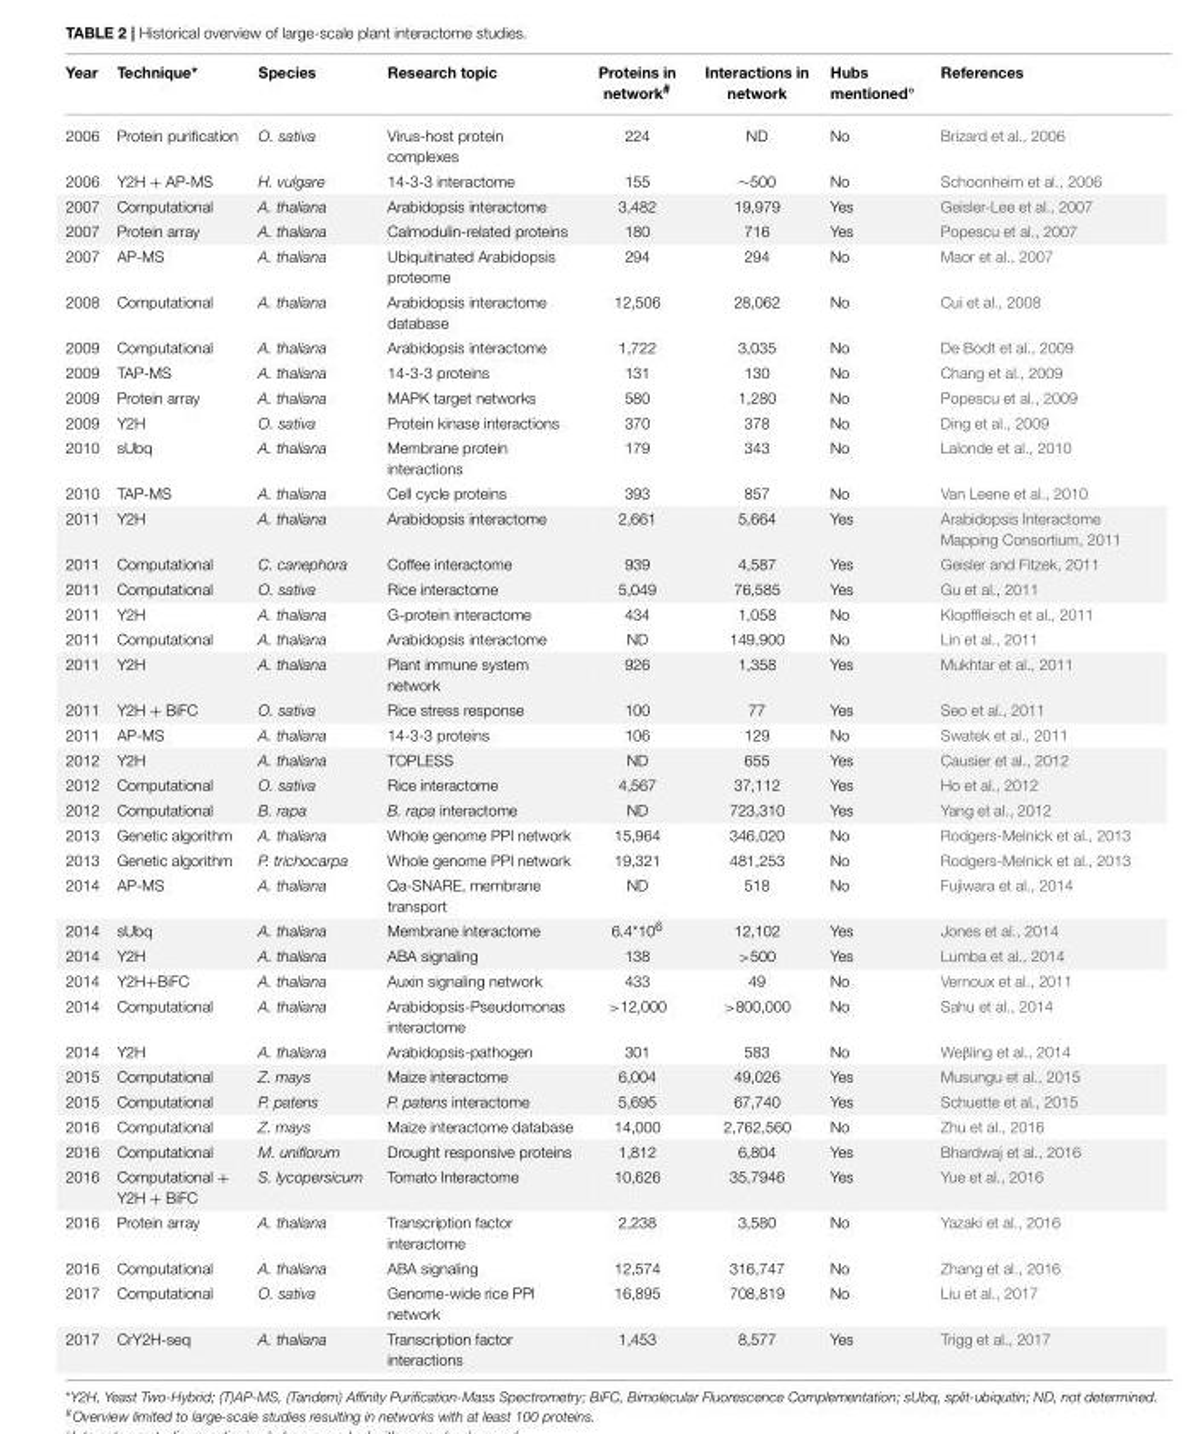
<table><thead><tr><td>Year</td><td>Technique*</td><td>Species</td><td>Research topic</td><td>Proteins in network<sup>#</sup></td><td>Interactions in network</td><td>Hubs mentioned◦</td><td>References</td></tr></thead><tbody><tr><td>2006</td><td>Protein purification</td><td>O. sativa</td><td>Virus-host protein complexes</td><td>224</td><td>ND</td><td>No</td><td>Brizard et al., 2006</td></tr><tr><td>2006</td><td>Y2H + AP-MS</td><td>H. vulgare</td><td>14-3-3 interactome</td><td>155</td><td>∼500</td><td>No</td><td>Schoonheim et al., 2006</td></tr><tr><td>2007</td><td>Computational</td><td>A. thaliana</td><td>Arabidopsis interactome</td><td>3,482</td><td>19,979</td><td>Yes</td><td>Geisler-Lee et al., 2007</td></tr><tr><td>2007</td><td>Protein array</td><td>A. thaliana</td><td>Calmodulin-related proteins</td><td>180</td><td>716</td><td>Yes</td><td>Popescu et al., 2007</td></tr><tr><td>2007</td><td>AP-MS</td><td>A. thaliana</td><td>Ubiquitinated Arabidopsis proteome</td><td>294</td><td>294</td><td>No</td><td>Maor et al., 2007</td></tr><tr><td>2008</td><td>Computational</td><td>A. thaliana</td><td>Arabidopsis interactome database</td><td>12,506</td><td>28,062</td><td>No</td><td>Cui et al., 2008</td></tr><tr><td>2009</td><td>Computational</td><td>A. thaliana</td><td>Arabidopsis interactome</td><td>1,722</td><td>3,035</td><td>No</td><td>De Bodt et al., 2009</td></tr><tr><td>2009</td><td>TAP-MS</td><td>A. thaliana</td><td>14-3-3 proteins</td><td>131</td><td>130</td><td>No</td><td>Chang et al., 2009</td></tr><tr><td>2009</td><td>Protein array</td><td>A. thaliana</td><td>MAPK target networks</td><td>580</td><td>1,280</td><td>No</td><td>Popescu et al., 2009</td></tr><tr><td>2009</td><td>Y2H</td><td>O. sativa</td><td>Protein kinase interactions</td><td>370</td><td>378</td><td>No</td><td>Ding et al., 2009</td></tr><tr><td>2010</td><td>sUbq</td><td>A. thaliana</td><td>Membrane protein interactions</td><td>179</td><td>343</td><td>No</td><td>Lalonde et al., 2010</td></tr><tr><td>2010</td><td>TAP-MS</td><td>A. thaliana</td><td>Cell cycle proteins</td><td>393</td><td>857</td><td>No</td><td>Van Leene et al., 2010</td></tr><tr><td>2011</td><td>Y2H</td><td>A. thaliana</td><td>Arabidopsis interactome</td><td>2,661</td><td>5,664</td><td>Yes</td><td>Arabidopsis Interactome Mapping Consortium, 2011</td></tr><tr><td>2011</td><td>Computational</td><td>C. canephora</td><td>Coffee interactome</td><td>939</td><td>4,587</td><td>Yes</td><td>Geisler and Fitzek, 2011</td></tr><tr><td>2011</td><td>Computational</td><td>O. sativa</td><td>Rice interactome</td><td>5,049</td><td>76,585</td><td>Yes</td><td>Gu et al., 2011</td></tr><tr><td>2011</td><td>Y2H</td><td>A. thaliana</td><td>G-protein interactome</td><td>434</td><td>1,058</td><td>No</td><td>Klopffleisch et al., 2011</td></tr><tr><td>2011</td><td>Computational</td><td>A. thaliana</td><td>Arabidopsis interactome</td><td>ND</td><td>149,900</td><td>No</td><td>Lin et al., 2011</td></tr><tr><td>2011</td><td>Y2H</td><td>A. thaliana</td><td>Plant immune system network</td><td>926</td><td>1,358</td><td>Yes</td><td>Mukhtar et al., 2011</td></tr><tr><td>2011</td><td>Y2H + BiFC</td><td>O. sativa</td><td>Rice stress response</td><td>100</td><td>77</td><td>Yes</td><td>Seo et al., 2011</td></tr><tr><td>2011</td><td>AP-MS</td><td>A. thaliana</td><td>14-3-3 proteins</td><td>106</td><td>129</td><td>No</td><td>Swatek et al., 2011</td></tr><tr><td>2012</td><td>Y2H</td><td>A. thaliana</td><td>TOPLESS</td><td>ND</td><td>655</td><td>Yes</td><td>Causier et al., 2012</td></tr><tr><td>2012</td><td>Computational</td><td>O. sativa</td><td>Rice interactome</td><td>4,567</td><td>37,112</td><td>Yes</td><td>Ho et al., 2012</td></tr><tr><td>2012</td><td>Computational</td><td>B. rapa</td><td>B. rapa interactome</td><td>ND</td><td>723,310</td><td>Yes</td><td>Yang et al., 2012</td></tr><tr><td>2013</td><td>Genetic algorithm</td><td>A. thaliana</td><td>Whole genome PPI network</td><td>15,964</td><td>346,020</td><td>No</td><td>Rodgers-Melnick et al., 2013</td></tr><tr><td>2013</td><td>Genetic algorithm</td><td>P. trichocarpa</td><td>Whole genome PPI network</td><td>19,321</td><td>481,253</td><td>No</td><td>Rodgers-Melnick et al., 2013</td></tr><tr><td>2014</td><td>AP-MS</td><td>A. thaliana</td><td>Qa-SNARE, membrane transport</td><td>ND</td><td>518</td><td>No</td><td>Fujiwara et al., 2014</td></tr><tr><td>2014</td><td>sUbq</td><td>A. thaliana</td><td>Membrane interactome</td><td>6.4*10<sup>6</sup></td><td>12,102</td><td>Yes</td><td>Jones et al., 2014</td></tr><tr><td>2014</td><td>Y2H</td><td>A. thaliana</td><td>ABA signaling</td><td>138</td><td>&gt;500</td><td>Yes</td><td>Lumba et al., 2014</td></tr><tr><td>2014</td><td>Y2H+BiFC</td><td>A. thaliana</td><td>Auxin signaling network</td><td>433</td><td>49</td><td>No</td><td>Vernoux et al., 2011</td></tr><tr><td>2014</td><td>Computational</td><td>A. thaliana</td><td>Arabidopsis-Pseudomonas interactome</td><td>&gt;12,000</td><td>&gt;800,000</td><td>No</td><td>Sahu et al., 2014</td></tr><tr><td>2014</td><td>Y2H</td><td>A. thaliana</td><td>Arabidopsis-pathogen</td><td>301</td><td>583</td><td>No</td><td>Weβling et al., 2014</td></tr><tr><td>2015</td><td>Computational</td><td>Z. mays</td><td>Maize interactome</td><td>6,004</td><td>49,026</td><td>Yes</td><td>Musungu et al., 2015</td></tr><tr><td>2015</td><td>Computational</td><td>P. patens</td><td>P. patens interactome</td><td>5,695</td><td>67,740</td><td>Yes</td><td>Schuette et al., 2015</td></tr><tr><td>2016</td><td>Computational</td><td>Z. mays</td><td>Maize interactome database</td><td>14,000</td><td>2,762,560</td><td>No</td><td>Zhu et al., 2016</td></tr><tr><td>2016</td><td>Computational</td><td>M. uniflorum</td><td>Drought responsive proteins</td><td>1,812</td><td>6,804</td><td>Yes</td><td>Bhardwaj et al., 2016</td></tr><tr><td>2016</td><td>Computational + Y2H + BiFC</td><td>S. lycopersicum</td><td>Tomato Interactome</td><td>10,626</td><td>35,7946</td><td>Yes</td><td>Yue et al., 2016</td></tr><tr><td>2016</td><td>Protein array</td><td>A. thaliana</td><td>Transcription factor interactome</td><td>2,238</td><td>3,580</td><td>No</td><td>Yazaki et al., 2016</td></tr><tr><td>2016</td><td>Computational</td><td>A. thaliana</td><td>ABA signaling</td><td>12,574</td><td>316,747</td><td>No</td><td>Zhang et al., 2016</td></tr><tr><td>2017</td><td>Computational</td><td>O. sativa</td><td>Genome-wide rice PPI network</td><td>16,895</td><td>708,819</td><td>No</td><td>Liu et al., 2017</td></tr><tr><td>2017</td><td>CrY2H-seq</td><td>A. thaliana</td><td>Transcription factor interactions</td><td>1,453</td><td>8,577</td><td>Yes</td><td>Trigg et al., 2017</td></tr></tbody></table>